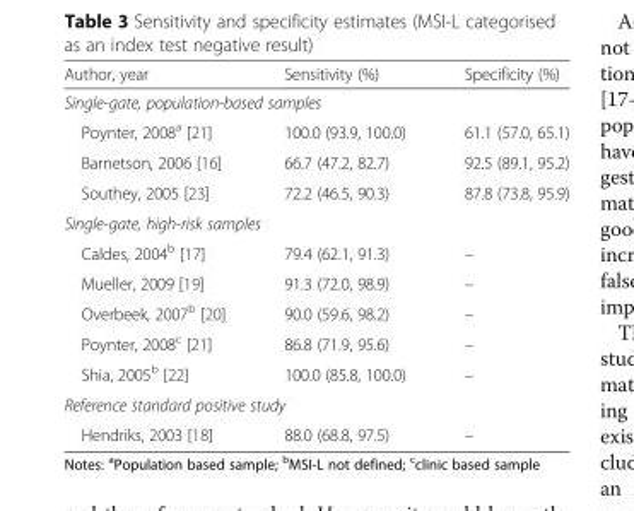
<table><thead><tr><td>Author, year</td><td>Sensitivity (%)</td><td>Specificity (%)</td></tr></thead><tbody><tr><td colspan="3">Single-gate, population-based samples</td></tr><tr><td>Poynter, 2008<sup>a</sup> [21]</td><td>100.0 (93.9, 100.0)</td><td>61.1 (57.0, 65.1)</td></tr><tr><td>Barnetson, 2006 [16]</td><td>66.7 (47.2, 82.7)</td><td>92.5 (89.1, 95.2)</td></tr><tr><td>Southey, 2005 [23]</td><td>72.2 (46.5, 90.3)</td><td>87.8 (73.8, 95.9)</td></tr><tr><td colspan="3">Single-gate, high-risk samples</td></tr><tr><td>Caldes, 2004<sup>b</sup> [17]</td><td>79.4 (62.1, 91.3)</td><td>–</td></tr><tr><td>Mueller, 2009 [19]</td><td>91.3 (72.0, 98.9)</td><td>–</td></tr><tr><td>Overbeek, 2007<sup>b</sup> [20]</td><td>90.0 (59.6, 98.2)</td><td>–</td></tr><tr><td>Poynter, 2008<sup>c</sup> [21]</td><td>86.8 (71.9, 95.6)</td><td>–</td></tr><tr><td>Shia, 2005<sup>b</sup> [22]</td><td>100.0 (85.8, 100.0)</td><td>–</td></tr><tr><td colspan="3">Reference standard positive study</td></tr><tr><td>Hendriks, 2003 [18]</td><td>88.0 (68.8, 97.5)</td><td>–</td></tr></tbody></table>